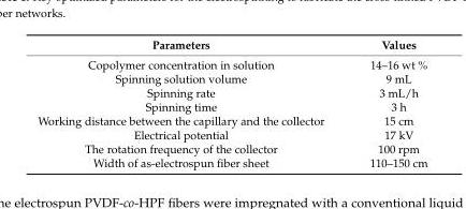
<table><thead><tr><td>Parameters</td><td>Values</td></tr></thead><tbody><tr><td>Copolymer concentration in solution</td><td>14–16 wt %</td></tr><tr><td>Spinning solution volume</td><td>9 mL</td></tr><tr><td>Spinning rate</td><td>3 mL/h</td></tr><tr><td>Spinning time</td><td>3 h</td></tr><tr><td>Working distance between the capillary and the collector</td><td>15 cm</td></tr><tr><td>Electrical potential</td><td>17 kV</td></tr><tr><td>The rotation frequency of the collector</td><td>100 rpm</td></tr><tr><td>Width of as-electrospun fiber sheet</td><td>110–150 cm</td></tr></tbody></table>